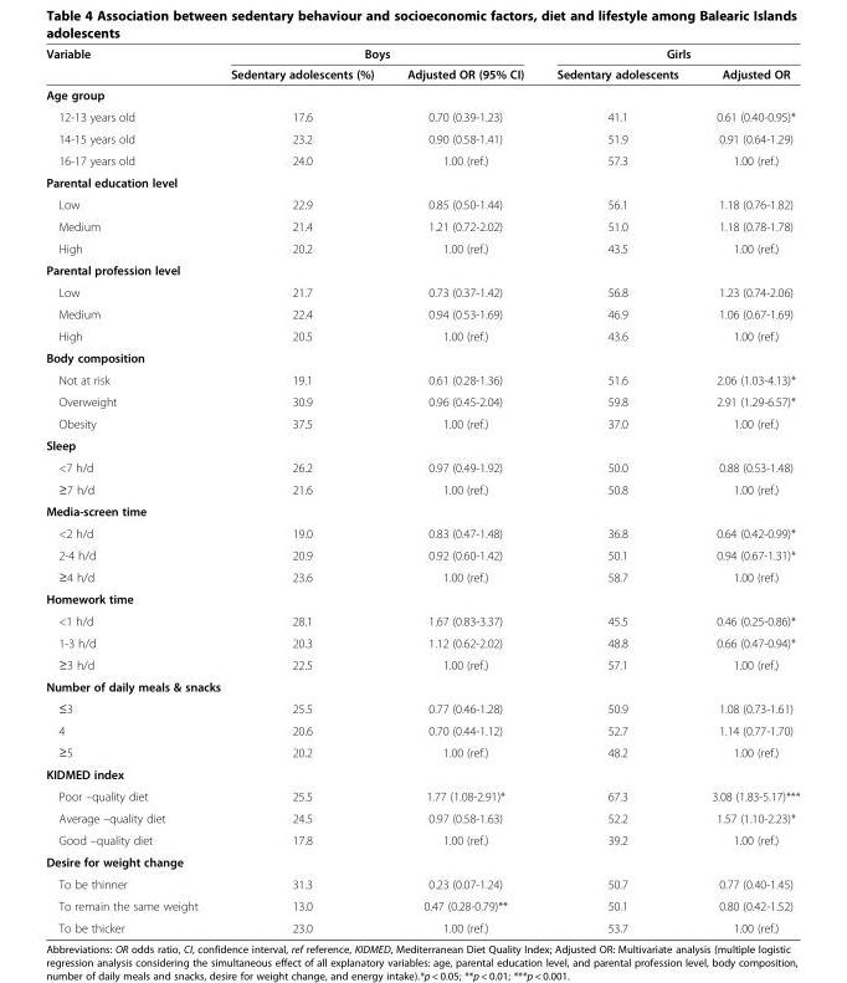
<table><thead><tr><td rowspan="2">Variable</td><td colspan="2">Boys</td><td colspan="2">Girls</td></tr><tr><td>Sedentary adolescents (%)</td><td>Adjusted OR (95% CI)</td><td>Sedentary adolescents</td><td>Adjusted OR</td></tr></thead><tbody><tr><td colspan="5">Age group</td></tr><tr><td>12-13 years old</td><td>17.6</td><td>0.70 (0.39-1.23)</td><td>41.1</td><td>0.61 (0.40-0.95)*</td></tr><tr><td>14-15 years old</td><td>23.2</td><td>0.90 (0.58-1.41)</td><td>51.9</td><td>0.91 (0.64-1.29)</td></tr><tr><td>16-17 years old</td><td>24.0</td><td>1.00 (ref.)</td><td>57.3</td><td>1.00 (ref.)</td></tr><tr><td colspan="5">Parental education level</td></tr><tr><td>Low</td><td>22.9</td><td>0.85 (0.50-1.44)</td><td>56.1</td><td>1.18 (0.76-1.82)</td></tr><tr><td>Medium</td><td>21.4</td><td>1.21 (0.72-2.02)</td><td>51.0</td><td>1.18 (0.78-1.78)</td></tr><tr><td>High</td><td>20.2</td><td>1.00 (ref.)</td><td>43.5</td><td>1.00 (ref.)</td></tr><tr><td colspan="5">Parental profession level</td></tr><tr><td>Low</td><td>21.7</td><td>0.73 (0.37-1.42)</td><td>56.8</td><td>1.23 (0.74-2.06)</td></tr><tr><td>Medium</td><td>22.4</td><td>0.94 (0.53-1.69)</td><td>46.9</td><td>1.06 (0.67-1.69)</td></tr><tr><td>High</td><td>20.5</td><td>1.00 (ref.)</td><td>43.6</td><td>1.00 (ref.)</td></tr><tr><td colspan="5">Body composition</td></tr><tr><td>Not at risk</td><td>19.1</td><td>0.61 (0.28-1.36)</td><td>51.6</td><td>2.06 (1.03-4.13)*</td></tr><tr><td>Overweight</td><td>30.9</td><td>0.96 (0.45-2.04)</td><td>59.8</td><td>2.91 (1.29-6.57)*</td></tr><tr><td>Obesity</td><td>37.5</td><td>1.00 (ref.)</td><td>37.0</td><td>1.00 (ref.)</td></tr><tr><td colspan="5">Sleep</td></tr><tr><td>&lt;7 h/d</td><td>26.2</td><td>0.97 (0.49-1.92)</td><td>50.0</td><td>0.88 (0.53-1.48)</td></tr><tr><td>≥7 h/d</td><td>21.6</td><td>1.00 (ref.)</td><td>50.8</td><td>1.00 (ref.)</td></tr><tr><td colspan="5">Media-screen time</td></tr><tr><td>&lt;2 h/d</td><td>19.0</td><td>0.83 (0.47-1.48)</td><td>36.8</td><td>0.64 (0.42-0.99)*</td></tr><tr><td>2-4 h/d</td><td>20.9</td><td>0.92 (0.60-1.42)</td><td>50.1</td><td>0.94 (0.67-1.31)*</td></tr><tr><td>≥4 h/d</td><td>23.6</td><td>1.00 (ref.)</td><td>58.7</td><td>1.00 (ref.)</td></tr><tr><td colspan="5">Homework time</td></tr><tr><td>&lt;1 h/d</td><td>28.1</td><td>1.67 (0.83-3.37)</td><td>45.5</td><td>0.46 (0.25-0.86)*</td></tr><tr><td>1-3 h/d</td><td>20.3</td><td>1.12 (0.62-2.02)</td><td>48.8</td><td>0.66 (0.47-0.94)*</td></tr><tr><td>≥3 h/d</td><td>22.5</td><td>1.00 (ref.)</td><td>57.1</td><td>1.00 (ref.)</td></tr><tr><td colspan="5">Number of daily meals &amp; snacks</td></tr><tr><td>≤3</td><td>25.5</td><td>0.77 (0.46-1.28)</td><td>50.9</td><td>1.08 (0.73-1.61)</td></tr><tr><td>4</td><td>20.6</td><td>0.70 (0.44-1.12)</td><td>52.7</td><td>1.14 (0.77-1.70)</td></tr><tr><td>≥5</td><td>20.2</td><td>1.00 (ref.)</td><td>48.2</td><td>1.00 (ref.)</td></tr><tr><td colspan="5">KIDMED index</td></tr><tr><td>Poor –quality diet</td><td>25.5</td><td>1.77 (1.08-2.91)*</td><td>67.3</td><td>3.08 (1.83-5.17)***</td></tr><tr><td>Average –quality diet</td><td>24.5</td><td>0.97 (0.58-1.63)</td><td>52.2</td><td>1.57 (1.10-2.23)*</td></tr><tr><td>Good –quality diet</td><td>17.8</td><td>1.00 (ref.)</td><td>39.2</td><td>1.00 (ref.)</td></tr><tr><td colspan="5">Desire for weight change</td></tr><tr><td>To be thinner</td><td>31.3</td><td>0.23 (0.07-1.24)</td><td>50.7</td><td>0.77 (0.40-1.45)</td></tr><tr><td>To remain the same weight</td><td>13.0</td><td>0.47 (0.28-0.79)**</td><td>50.1</td><td>0.80 (0.42-1.52)</td></tr><tr><td>To be thicker</td><td>23.0</td><td>1.00 (ref.)</td><td>53.7</td><td>1.00 (ref.)</td></tr></tbody></table>